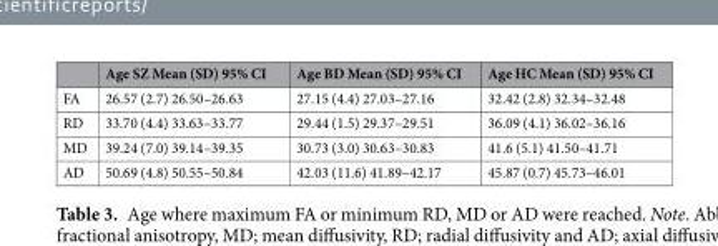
<table><thead><tr><td></td><td>Age SZ Mean (SD) 95% CI</td><td>Age BD Mean (SD) 95% CI</td><td>Age HC Mean (SD) 95% CI</td></tr></thead><tbody><tr><td>FA</td><td>26.57 (2.7) 26.50–26.63</td><td>27.15 (4.4) 27.03–27.16</td><td>32.42 (2.8) 32.34–32.48</td></tr><tr><td>RD</td><td>33.70 (4.4) 33.63–33.77</td><td>29.44 (1.5) 29.37–29.51</td><td>36.09 (4.1) 36.02–36.16</td></tr><tr><td>MD</td><td>39.24 (7.0) 39.14–39.35</td><td>30.73 (3.0) 30.63–30.83</td><td>41.6 (5.1) 41.50–41.71</td></tr><tr><td>AD</td><td>50.69 (4.8) 50.55–50.84</td><td>42.03 (11.6) 41.89–42.17</td><td>45.87 (0.7) 45.73–46.01</td></tr></tbody></table>